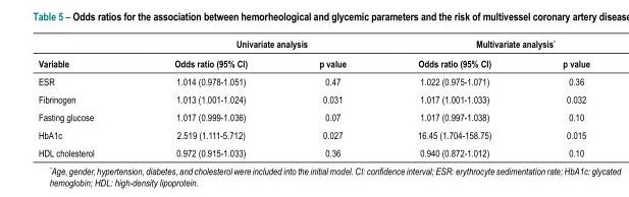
<table><thead><tr><td rowspan="2">Variable</td><td colspan="2">Univariate analysis</td><td colspan="2">Multivariate analysis*</td></tr><tr><td>Odds ratio (95% CI)</td><td>p value</td><td>Odds ratio (95% CI)</td><td>p value</td></tr></thead><tbody><tr><td>ESR</td><td>1.014 (0.978-1.051)</td><td>0.47</td><td>1.022 (0.975-1.071)</td><td>0.36</td></tr><tr><td>Fibrinogen</td><td>1.013 (1.001-1.024)</td><td>0.031</td><td>1.017 (1.001-1.033)</td><td>0.032</td></tr><tr><td>Fasting glucose</td><td>1.017 (0.999-1.036)</td><td>0.07</td><td>1.017 (0.997-1.038)</td><td>0.10</td></tr><tr><td>HbA1c</td><td>2.519 (1.111-5.712)</td><td>0.027</td><td>16.45 (1.704-158.75)</td><td>0.015</td></tr><tr><td>HDL cholesterol</td><td>0.972 (0.915-1.033)</td><td>0.36</td><td>0.940 (0.872-1.012)</td><td>0.10</td></tr></tbody></table>